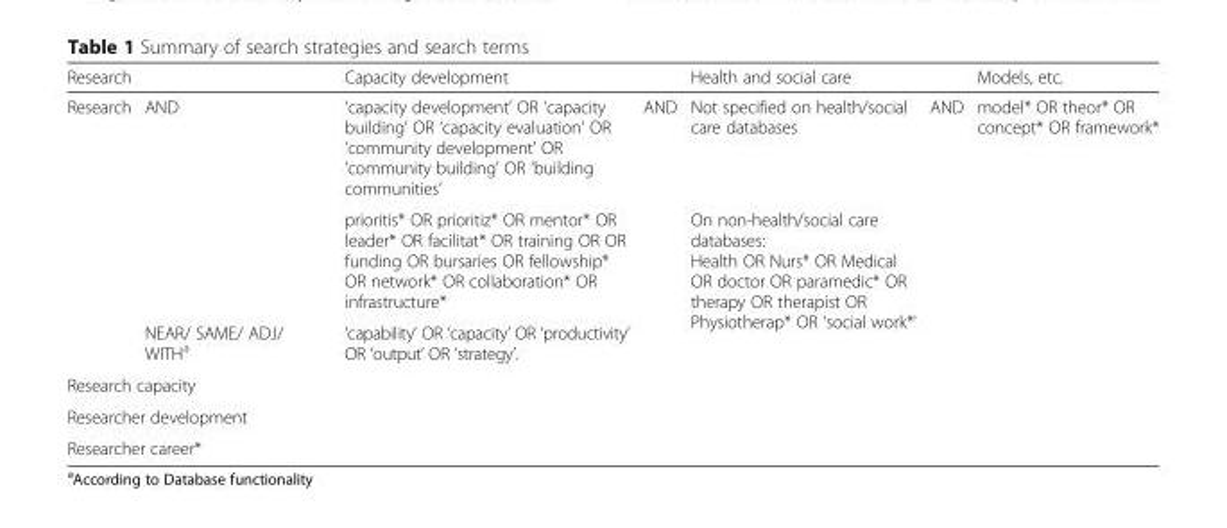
<table><thead><tr><td>Research</td><td></td><td>Capacity development</td><td></td><td>Health and social care</td><td></td><td>Models, etc.</td></tr></thead><tbody><tr><td rowspan="3">Research</td><td rowspan="2">AND</td><td>‘capacity development’ OR ‘capacity building’ OR ‘capacity evaluation’ OR ‘community development’ OR ‘community building’ OR ‘building communities’</td><td rowspan="6">AND</td><td>Not specified on health/social care databases</td><td rowspan="6">AND</td><td rowspan="6">model* OR theor* OR concept* OR framework*</td></tr><tr><td>prioritis* OR prioritiz* OR mentor* OR leader* OR facilitat* OR training OR OR funding OR bursaries OR fellowship* OR network* OR collaboration* OR infrastructure*</td><td rowspan="5">On non-health/social care databases: Health OR Nurs* OR Medical OR doctor OR paramedic* OR therapy OR therapist OR Physiotherap* OR ‘social work*’</td></tr><tr><td>NEAR/ SAME/ ADJ/ WITH<sup>a</sup></td><td>‘capability’ OR ‘capacity’ OR ‘productivity’ OR ‘output’ OR ‘strategy’.</td></tr><tr><td colspan="3">Research capacity</td></tr><tr><td colspan="3">Researcher development</td></tr><tr><td colspan="3">Researcher career*</td></tr></tbody></table>